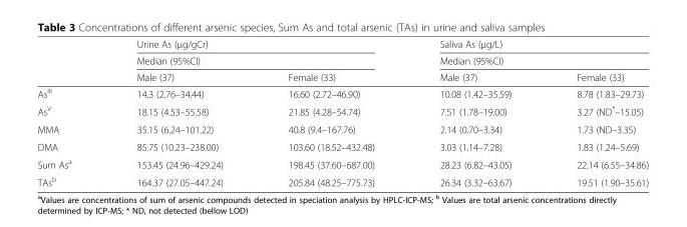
<table><thead><tr><td rowspan="3"></td><td rowspan="2" colspan="2">Urine As (μg/gCr) Median (95%CI)</td><td rowspan="2" colspan="2">Saliva As (μg/L) Median (95%CI)</td></tr><tr></tr><tr><td>Male (37)</td><td>Female (33)</td><td>Male (37)</td><td>Female (33)</td></tr></thead><tbody><tr><td>As<sup>III</sup></td><td>14.3 (2.76–34.44)</td><td>16.60 (2.72–46.90)</td><td>10.08 (1.42–35.59)</td><td>8.78 (1.83–29.73)</td></tr><tr><td>As<sup>V</sup></td><td>18.15 (4.53–55.58)</td><td>21.85 (4.28–54.74)</td><td>7.51 (1.78–19.00)</td><td>3.27 (ND*–15.05)</td></tr><tr><td>MMA</td><td>35.15 (6.24–101.22)</td><td>40.8 (9.4–167.76)</td><td>2.14 (0.70–3.34)</td><td>1.73 (ND–3.35)</td></tr><tr><td>DMA</td><td>85.75 (10.23–238.00)</td><td>103.60 (18.52–432.48)</td><td>3.03 (1.14–7.28)</td><td>1.83 (1.24–5.69)</td></tr><tr><td>Sum As<sup>a</sup></td><td>153.45 (24.96–429.24)</td><td>198.45 (37.60–687.00)</td><td>28.23 (6.82–43.05)</td><td>22.14 (6.55–34.86)</td></tr><tr><td>TAs<sup>b</sup></td><td>164.37 (27.05–447.24)</td><td>205.84 (48.25–775.73)</td><td>26.34 (3.32–63.67)</td><td>19.51 (1.90–35.61)</td></tr></tbody></table>